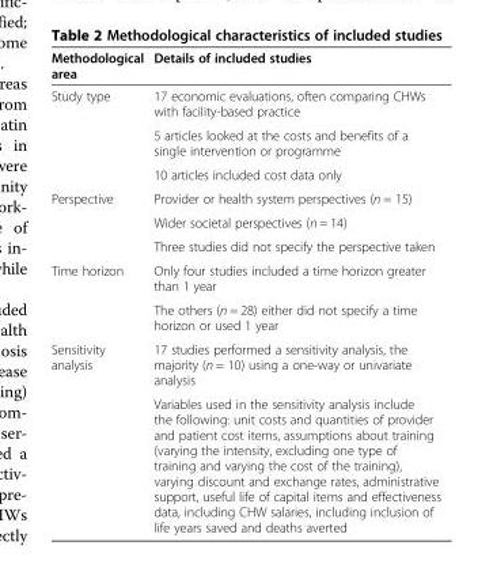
<table><thead><tr><td>Methodological area</td><td>Details of included studies</td></tr></thead><tbody><tr><td rowspan="3">Study type</td><td>17 economic evaluations, often comparing CHWs with facility-based practice</td></tr><tr><td>5 articles looked at the costs and benefits of a single intervention or programme</td></tr><tr><td>10 articles included cost data only</td></tr><tr><td rowspan="3">Perspective</td><td>Provider or health system perspectives (n = 15)</td></tr><tr><td>Wider societal perspectives (n = 14)</td></tr><tr><td>Three studies did not specify the perspective taken</td></tr><tr><td rowspan="2">Time horizon</td><td>Only four studies included a time horizon greater than 1 year</td></tr><tr><td>The others (n = 28) either did not specify a time horizon or used 1 year</td></tr><tr><td rowspan="2">Sensitivity analysis</td><td>17 studies performed a sensitivity analysis, the majority (n = 10) using a one-way or univariate analysis</td></tr><tr><td>Variables used in the sensitivity analysis include the following: unit costs and quantities of provider and patient cost items, assumptions about training (varying the intensity, excluding one type of training and varying the cost of the training), varying discount and exchange rates, administrative support, useful life of capital items and effectiveness data, including CHW salaries, including inclusion of life years saved and deaths averted</td></tr></tbody></table>